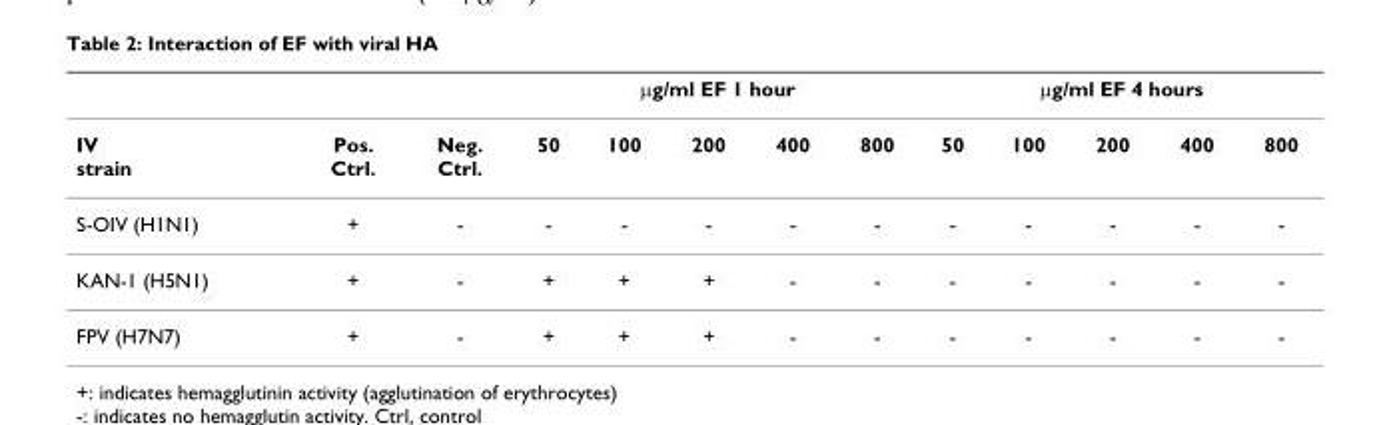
<table><thead><tr><td rowspan="2">IV strain</td><td rowspan="2">Pos. Ctrl.</td><td rowspan="2">Neg. Ctrl.</td><td colspan="5">μg/ml EF 1 hour</td><td colspan="5">μg/ml EF 4 hours</td></tr><tr><td>50</td><td>100</td><td>200</td><td>400</td><td>800</td><td>50</td><td>100</td><td>200</td><td>400</td><td>800</td></tr></thead><tbody><tr><td>S-OIV (H1N1)</td><td>+</td><td>-</td><td>-</td><td>-</td><td>-</td><td>-</td><td>-</td><td>-</td><td>-</td><td>-</td><td>-</td><td>-</td></tr><tr><td>KAN-1 (H5N1)</td><td>+</td><td>-</td><td>+</td><td>+</td><td>+</td><td>-</td><td>-</td><td>-</td><td>-</td><td>-</td><td>-</td><td>-</td></tr><tr><td>FPV (H7N7)</td><td>+</td><td>-</td><td>+</td><td>+</td><td>+</td><td>-</td><td>-</td><td>-</td><td>-</td><td>-</td><td>-</td><td>-</td></tr></tbody></table>